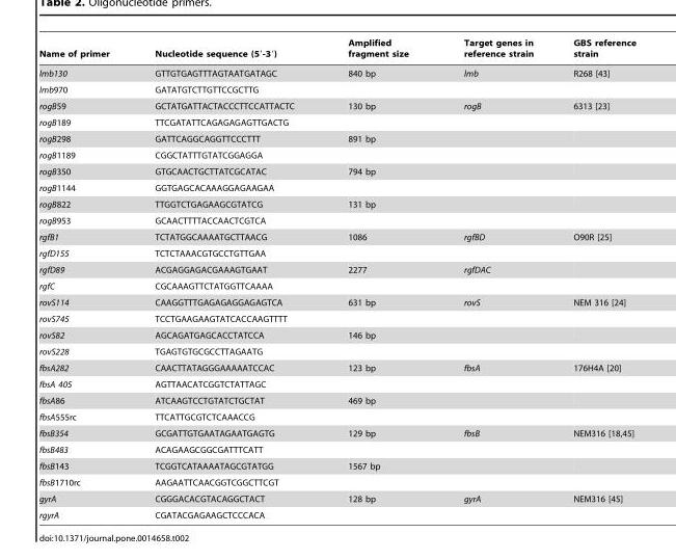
<table><thead><tr><td>Name of primer</td><td>Nucleotide sequence (5′-3′)</td><td>Amplified fragment size</td><td>Target genes in reference strain</td><td>GBS reference strain</td></tr></thead><tbody><tr><td>lmb130</td><td>GTTGTGAGTTTAGTAATGATAGC</td><td>840 bp</td><td>lmb</td><td>R268 [43]</td></tr><tr><td>lmb970</td><td>GATATGTCTTGTTCCGCTTG</td><td></td><td></td><td></td></tr><tr><td>rogB59</td><td>GCTATGATTACTACCCTTCCATTACTC</td><td>130 bp</td><td>rogB</td><td>6313 [23]</td></tr><tr><td>rogB189</td><td>TTCGATATTCAGAGAGAGTTGACTG</td><td></td><td></td><td></td></tr><tr><td>rogB298</td><td>GATTCAGGCAGGTTCCCTTT</td><td>891 bp</td><td></td><td></td></tr><tr><td>rogB1189</td><td>CGGCTATTTGTATCGGAGGA</td><td></td><td></td><td></td></tr><tr><td>rogB350</td><td>GTGCAACTGCTTATCGCATAC</td><td>794 bp</td><td></td><td></td></tr><tr><td>rogB1144</td><td>GGTGAGCACAAAGGAGAAGAA</td><td></td><td></td><td></td></tr><tr><td>rogB822</td><td>TTGGTCTGAGAAGCGTATCG</td><td>131 bp</td><td></td><td></td></tr><tr><td>rogB953</td><td>GCAACTTTTACCAACTCGTCA</td><td></td><td></td><td></td></tr><tr><td>rgfB1</td><td>TCTATGGCAAAATGCTTAACG</td><td>1086</td><td>rgfBD</td><td>O90R [25]</td></tr><tr><td>rgfD155</td><td>TCTCTAAACGTGCCTGTTGAA</td><td></td><td></td><td></td></tr><tr><td>rgfD89</td><td>ACGAGGAGACGAAAGTGAAT</td><td>2277</td><td>rgfDAC</td><td></td></tr><tr><td>rgfC</td><td>CGCAAAGTTCTATGGTTCAAAA</td><td></td><td></td><td></td></tr><tr><td>rovS114</td><td>CAAGGTTTGAGAGAGGAGAGTCA</td><td>631 bp</td><td>rovS</td><td>NEM 316 [24]</td></tr><tr><td>rovS745</td><td>TCCTGAAGAAGTATCACCAAGTTTT</td><td></td><td></td><td></td></tr><tr><td>rovS82</td><td>AGCAGATGAGCACCTATCCA</td><td>146 bp</td><td></td><td></td></tr><tr><td>rovS228</td><td>TGAGTGTGCGCCTTAGAATG</td><td></td><td></td><td></td></tr><tr><td>fbsA282</td><td>CAACTTATAGGGAAAAATCCAC</td><td>123 bp</td><td>fbsA</td><td>176H4A [20]</td></tr><tr><td>fbsA 405</td><td>AGTTAACATCGGTCTATTAGC</td><td></td><td></td><td></td></tr><tr><td>fbsA86</td><td>ATCAAGTCCTGTATCTGCTAT</td><td>469 bp</td><td></td><td></td></tr><tr><td>fbsA555rc</td><td>TTCATTGCGTCTCAAACCG</td><td></td><td></td><td></td></tr><tr><td>fbsB354</td><td>GCGATTGTGAATAGAATGAGTG</td><td>129 bp</td><td>fbsB</td><td>NEM316 [18,45]</td></tr><tr><td>fbsB483</td><td>ACAGAAGCGGCGATTTCATT</td><td></td><td></td><td></td></tr><tr><td>fbsB143</td><td>TCGGTCATAAAATAGCGTATGG</td><td>1567 bp</td><td></td><td></td></tr><tr><td>fbsB1710rc</td><td>AAGAATTCAACGGTCGGCTTCGT</td><td></td><td></td><td></td></tr><tr><td>gyrA</td><td>CGGGACACGTACAGGCTACT</td><td>128 bp</td><td>gyrA</td><td>NEM316 [45]</td></tr><tr><td>rgyrA</td><td>CGATACGAGAAGCTCCCACA</td><td></td><td></td><td></td></tr></tbody></table>